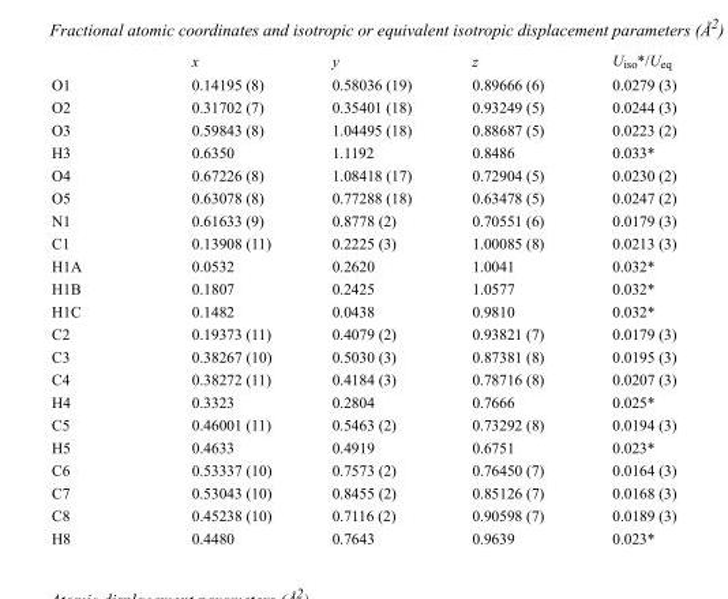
<table><thead><tr><td></td><td>x</td><td>y</td><td>z</td><td>U<sub>iso</sub>*/U<sub>eq</sub></td></tr></thead><tbody><tr><td>O1</td><td>0.14195 (8)</td><td>0.58036 (19)</td><td>0.89666 (6)</td><td>0.0279 (3)</td></tr><tr><td>O2</td><td>0.31702 (7)</td><td>0.35401 (18)</td><td>0.93249 (5)</td><td>0.0244 (3)</td></tr><tr><td>O3</td><td>0.59843 (8)</td><td>1.04495 (18)</td><td>0.88687 (5)</td><td>0.0223 (2)</td></tr><tr><td>H3</td><td>0.6350</td><td>1.1192</td><td>0.8486</td><td>0.033*</td></tr><tr><td>O4</td><td>0.67226 (8)</td><td>1.08418 (17)</td><td>0.72904 (5)</td><td>0.0230 (2)</td></tr><tr><td>O5</td><td>0.63078 (8)</td><td>0.77288 (18)</td><td>0.63478 (5)</td><td>0.0247 (2)</td></tr><tr><td>N1</td><td>0.61633 (9)</td><td>0.8778 (2)</td><td>0.70551 (6)</td><td>0.0179 (3)</td></tr><tr><td>C1</td><td>0.13908 (11)</td><td>0.2225 (3)</td><td>1.00085 (8)</td><td>0.0213 (3)</td></tr><tr><td>H1A</td><td>0.0532</td><td>0.2620</td><td>1.0041</td><td>0.032*</td></tr><tr><td>H1B</td><td>0.1807</td><td>0.2425</td><td>1.0577</td><td>0.032*</td></tr><tr><td>H1C</td><td>0.1482</td><td>0.0438</td><td>0.9810</td><td>0.032*</td></tr><tr><td>C2</td><td>0.19373 (11)</td><td>0.4079 (2)</td><td>0.93821 (7)</td><td>0.0179 (3)</td></tr><tr><td>C3</td><td>0.38267 (10)</td><td>0.5030 (3)</td><td>0.87381 (8)</td><td>0.0195 (3)</td></tr><tr><td>C4</td><td>0.38272 (11)</td><td>0.4184 (3)</td><td>0.78716 (8)</td><td>0.0207 (3)</td></tr><tr><td>H4</td><td>0.3323</td><td>0.2804</td><td>0.7666</td><td>0.025*</td></tr><tr><td>C5</td><td>0.46001 (11)</td><td>0.5463 (2)</td><td>0.73292 (8)</td><td>0.0194 (3)</td></tr><tr><td>H5</td><td>0.4633</td><td>0.4919</td><td>0.6751</td><td>0.023*</td></tr><tr><td>C6</td><td>0.53337 (10)</td><td>0.7573 (2)</td><td>0.76450 (7)</td><td>0.0164 (3)</td></tr><tr><td>C7</td><td>0.53043 (10)</td><td>0.8455 (2)</td><td>0.85126 (7)</td><td>0.0168 (3)</td></tr><tr><td>C8</td><td>0.45238 (10)</td><td>0.7116 (2)</td><td>0.90598 (7)</td><td>0.0189 (3)</td></tr><tr><td>H8</td><td>0.4480</td><td>0.7643</td><td>0.9639</td><td>0.023*</td></tr></tbody></table>